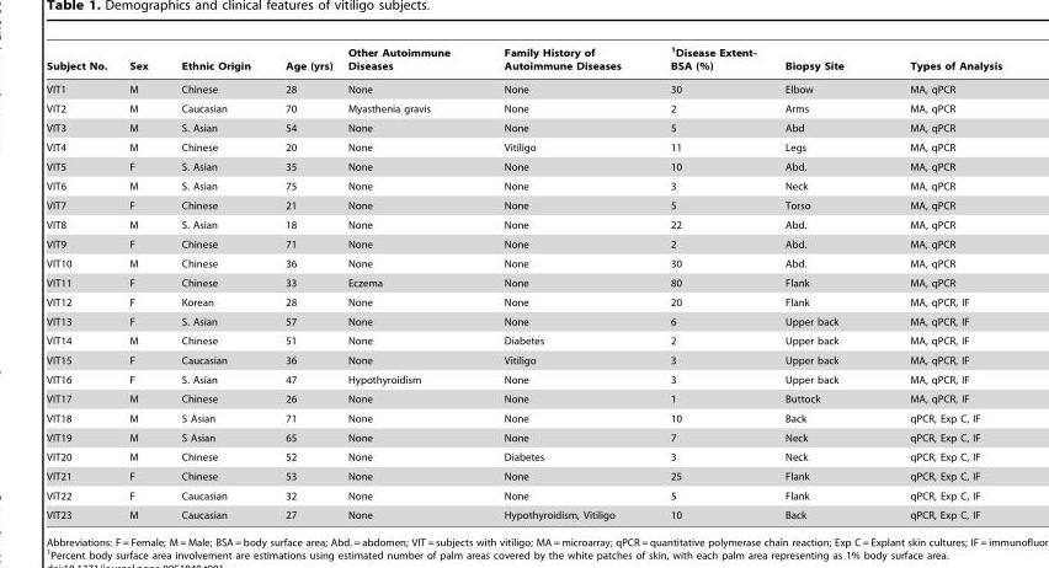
<table><thead><tr><td>Subject No.</td><td>Sex</td><td>Ethnic Origin</td><td>Age (yrs)</td><td>Other Autoimmune Diseases</td><td>Family History of Autoimmune Diseases</td><td>1Disease Extent- BSA (%)</td><td>Biopsy Site</td><td>Types of Analysis</td></tr></thead><tbody><tr><td>VIT1</td><td>M</td><td>Chinese</td><td>28</td><td>None</td><td>None</td><td>30</td><td>Elbow</td><td>MA, qPCR</td></tr><tr><td>VIT2</td><td>M</td><td>Caucasian</td><td>70</td><td>Myasthenia gravis</td><td>None</td><td>2</td><td>Arms</td><td>MA, qPCR</td></tr><tr><td>VIT3</td><td>M</td><td>S. Asian</td><td>54</td><td>None</td><td>None</td><td>5</td><td>Abd</td><td>MA, qPCR</td></tr><tr><td>VIT4</td><td>M</td><td>Chinese</td><td>20</td><td>None</td><td>Vitiligo</td><td>11</td><td>Legs</td><td>MA, qPCR</td></tr><tr><td>VIT5</td><td>F</td><td>S. Asian</td><td>35</td><td>None</td><td>None</td><td>10</td><td>Abd.</td><td>MA, qPCR</td></tr><tr><td>VIT6</td><td>M</td><td>S. Asian</td><td>75</td><td>None</td><td>None</td><td>3</td><td>Neck</td><td>MA, qPCR</td></tr><tr><td>VIT7</td><td>F</td><td>Chinese</td><td>21</td><td>None</td><td>None</td><td>5</td><td>Torso</td><td>MA, qPCR</td></tr><tr><td>VIT8</td><td>M</td><td>S. Asian</td><td>18</td><td>None</td><td>None</td><td>22</td><td>Abd.</td><td>MA, qPCR</td></tr><tr><td>VIT9</td><td>F</td><td>Chinese</td><td>71</td><td>None</td><td>None</td><td>2</td><td>Abd.</td><td>MA, qPCR</td></tr><tr><td>VIT10</td><td>M</td><td>Chinese</td><td>36</td><td>None</td><td>None</td><td>30</td><td>Abd.</td><td>MA, qPCR</td></tr><tr><td>VIT11</td><td>F</td><td>Chinese</td><td>33</td><td>Eczema</td><td>None</td><td>80</td><td>Flank</td><td>MA, qPCR</td></tr><tr><td>VIT12</td><td>F</td><td>Korean</td><td>28</td><td>None</td><td>None</td><td>20</td><td>Flank</td><td>MA, qPCR, IF</td></tr><tr><td>VIT13</td><td>F</td><td>S. Asian</td><td>57</td><td>None</td><td>None</td><td>6</td><td>Upper back</td><td>MA, qPCR, IF</td></tr><tr><td>VIT14</td><td>M</td><td>Chinese</td><td>51</td><td>None</td><td>Diabetes</td><td>2</td><td>Upper back</td><td>MA, qPCR, IF</td></tr><tr><td>VIT15</td><td>F</td><td>Caucasian</td><td>36</td><td>None</td><td>Vitiligo</td><td>3</td><td>Upper back</td><td>MA, qPCR, IF</td></tr><tr><td>VIT16</td><td>F</td><td>S. Asian</td><td>47</td><td>Hypothyroidism</td><td>None</td><td>3</td><td>Upper back</td><td>MA, qPCR, IF</td></tr><tr><td>VIT17</td><td>M</td><td>Chinese</td><td>26</td><td>None</td><td>None</td><td>1</td><td>Buttock</td><td>MA, qPCR, IF</td></tr><tr><td>VIT18</td><td>M</td><td>S Asian</td><td>71</td><td>None</td><td>None</td><td>10</td><td>Back</td><td>qPCR, Exp C, IF</td></tr><tr><td>VIT19</td><td>M</td><td>S Asian</td><td>65</td><td>None</td><td>None</td><td>7</td><td>Neck</td><td>qPCR, Exp C, IF</td></tr><tr><td>VIT20</td><td>M</td><td>Chinese</td><td>52</td><td>None</td><td>Diabetes</td><td>3</td><td>Neck</td><td>qPCR, Exp C, IF</td></tr><tr><td>VIT21</td><td>F</td><td>Chinese</td><td>53</td><td>None</td><td>None</td><td>25</td><td>Flank</td><td>qPCR, Exp C, IF</td></tr><tr><td>VIT22</td><td>F</td><td>Caucasian</td><td>32</td><td>None</td><td>None</td><td>5</td><td>Flank</td><td>qPCR, Exp C, IF</td></tr><tr><td>VIT23</td><td>M</td><td>Caucasian</td><td>27</td><td>None</td><td>Hypothyroidism, Vitiligo</td><td>10</td><td>Back</td><td>qPCR, Exp C, IF</td></tr></tbody></table>